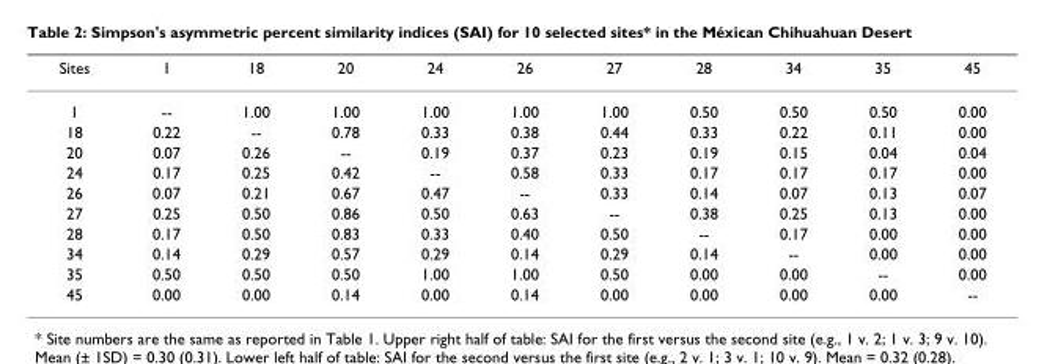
<table><thead><tr><td>Sites</td><td>1</td><td>18</td><td>20</td><td>24</td><td>26</td><td>27</td><td>28</td><td>34</td><td>35</td><td>45</td></tr></thead><tbody><tr><td>1</td><td>--</td><td>1.00</td><td>1.00</td><td>1.00</td><td>1.00</td><td>1.00</td><td>0.50</td><td>0.50</td><td>0.50</td><td>0.00</td></tr><tr><td>18</td><td>0.22</td><td>--</td><td>0.78</td><td>0.33</td><td>0.38</td><td>0.44</td><td>0.33</td><td>0.22</td><td>0.11</td><td>0.00</td></tr><tr><td>20</td><td>0.07</td><td>0.26</td><td>--</td><td>0.19</td><td>0.37</td><td>0.23</td><td>0.19</td><td>0.15</td><td>0.04</td><td>0.04</td></tr><tr><td>24</td><td>0.17</td><td>0.25</td><td>0.42</td><td>--</td><td>0.58</td><td>0.33</td><td>0.17</td><td>0.17</td><td>0.17</td><td>0.00</td></tr><tr><td>26</td><td>0.07</td><td>0.21</td><td>0.67</td><td>0.47</td><td>--</td><td>0.33</td><td>0.14</td><td>0.07</td><td>0.13</td><td>0.07</td></tr><tr><td>27</td><td>0.25</td><td>0.50</td><td>0.86</td><td>0.50</td><td>0.63</td><td>--</td><td>0.38</td><td>0.25</td><td>0.13</td><td>0.00</td></tr><tr><td>28</td><td>0.17</td><td>0.50</td><td>0.83</td><td>0.33</td><td>0.40</td><td>0.50</td><td>--</td><td>0.17</td><td>0.00</td><td>0.00</td></tr><tr><td>34</td><td>0.14</td><td>0.29</td><td>0.57</td><td>0.29</td><td>0.14</td><td>0.29</td><td>0.14</td><td>--</td><td>0.00</td><td>0.00</td></tr><tr><td>35</td><td>0.50</td><td>0.50</td><td>0.50</td><td>1.00</td><td>1.00</td><td>0.50</td><td>0.00</td><td>0.00</td><td>--</td><td>0.00</td></tr><tr><td>45</td><td>0.00</td><td>0.00</td><td>0.14</td><td>0.00</td><td>0.14</td><td>0.00</td><td>0.00</td><td>0.00</td><td>0.00</td><td>--</td></tr></tbody></table>